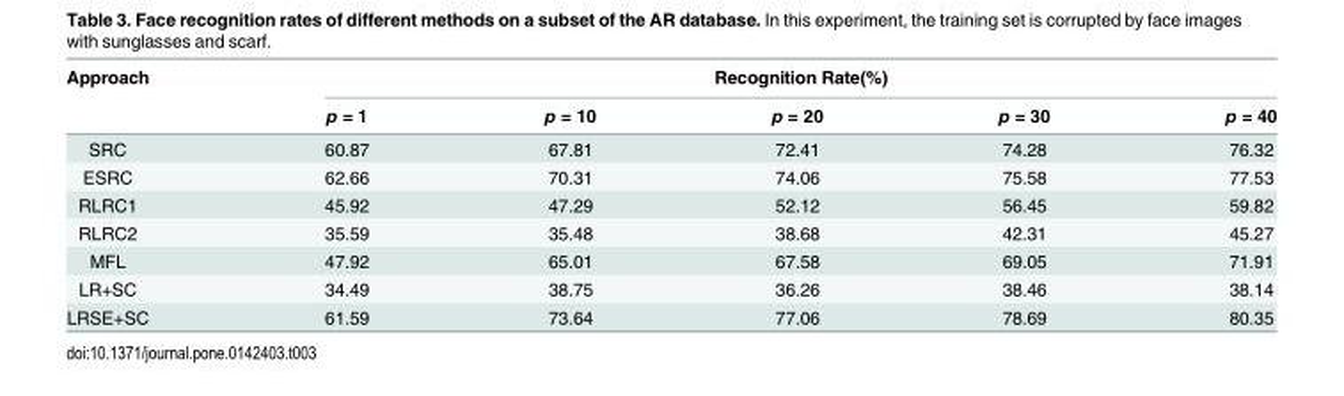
<table><thead><tr><td rowspan="2">Approach</td><td colspan="5">Recognition Rate(%)</td></tr><tr><td>p = 1</td><td>p = 10</td><td>p = 20</td><td>p = 30</td><td>p = 40</td></tr></thead><tbody><tr><td>SRC</td><td>60.87</td><td>67.81</td><td>72.41</td><td>74.28</td><td>76.32</td></tr><tr><td>ESRC</td><td>62.66</td><td>70.31</td><td>74.06</td><td>75.58</td><td>77.53</td></tr><tr><td>RLRC1</td><td>45.92</td><td>47.29</td><td>52.12</td><td>56.45</td><td>59.82</td></tr><tr><td>RLRC2</td><td>35.59</td><td>35.48</td><td>38.68</td><td>42.31</td><td>45.27</td></tr><tr><td>MFL</td><td>47.92</td><td>65.01</td><td>67.58</td><td>69.05</td><td>71.91</td></tr><tr><td>LR+SC</td><td>34.49</td><td>38.75</td><td>36.26</td><td>38.46</td><td>38.14</td></tr><tr><td>LRSE+SC</td><td>61.59</td><td>73.64</td><td>77.06</td><td>78.69</td><td>80.35</td></tr></tbody></table>